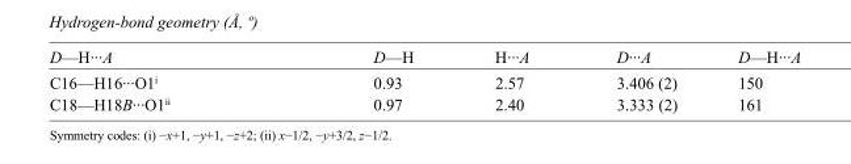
<table><tbody><tr><td>D—H···A</td><td>D—H</td><td>H···A</td><td>D···A</td><td>D—H···A</td></tr><tr><td>C16—H16···O1<sup>i</sup></td><td>0.93</td><td>2.57</td><td>3.406 (2)</td><td>150</td></tr><tr><td>C18—H18B···O1<sup>ii</sup></td><td>0.97</td><td>2.40</td><td>3.333 (2)</td><td>161</td></tr></tbody></table>